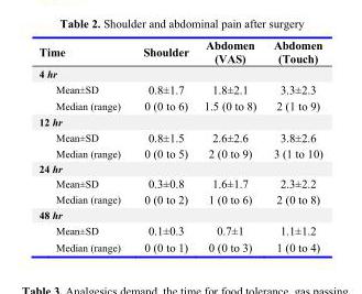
<table><thead><tr><td>Time</td><td>Shoulder</td><td>Abdomen (VAS)</td><td>Abdomen (Touch)</td></tr></thead><tbody><tr><td colspan="4">4 hr</td></tr><tr><td>Mean±SD</td><td>0.8±1.7</td><td>1.8±2.1</td><td>3.3±2.3</td></tr><tr><td>Median (range)</td><td>0 (0 to 6)</td><td>1.5 (0 to 8)</td><td>2 (1 to 9)</td></tr><tr><td colspan="4">12 hr</td></tr><tr><td>Mean±SD</td><td>0.8±1.5</td><td>2.6±2.6</td><td>3.8±2.6</td></tr><tr><td>Median (range)</td><td>0 (0 to 5)</td><td>2 (0 to 9)</td><td>3 (1 to 10)</td></tr><tr><td colspan="4">24 hr</td></tr><tr><td>Mean±SD</td><td>0.3±0.8</td><td>1.6±1.7</td><td>2.3±2.2</td></tr><tr><td>Median (range)</td><td>0 (0 to 2)</td><td>1 (0 to 6)</td><td>2 (0 to 8)</td></tr><tr><td colspan="4">48 hr</td></tr><tr><td>Mean±SD</td><td>0.1±0.3</td><td>0.7±1</td><td>1.1±1.2</td></tr><tr><td>Median (range)</td><td>0 (0 to 1)</td><td>0 (0 to 3)</td><td>1 (0 to 4)</td></tr></tbody></table>